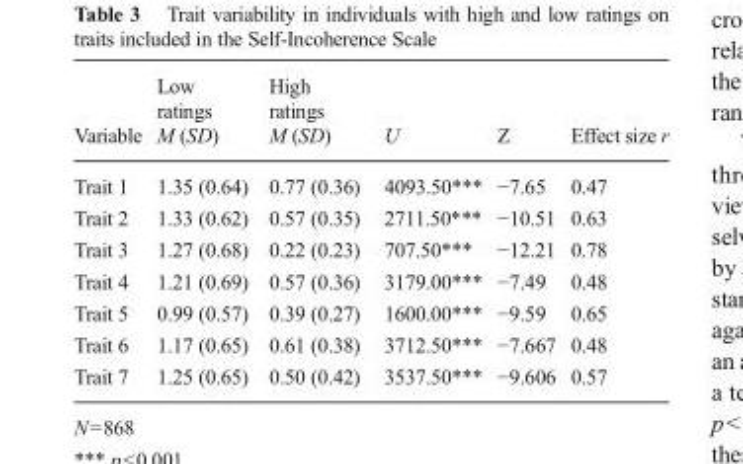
<table><thead><tr><td rowspan="2">Variable</td><td rowspan="2">Low ratings M (SD)</td><td rowspan="2">High ratings M (SD)</td><td rowspan="2">U</td><td rowspan="2">Z</td><td rowspan="2">Effect size r</td></tr><tr></tr></thead><tbody><tr><td>Trait 1</td><td>1.35 (0.64)</td><td>0.77 (0.36)</td><td>4093.50***</td><td>−7.65</td><td>0.47</td></tr><tr><td>Trait 2</td><td>1.33 (0.62)</td><td>0.57 (0.35)</td><td>2711.50***</td><td>−10.51</td><td>0.63</td></tr><tr><td>Trait 3</td><td>1.27 (0.68)</td><td>0.22 (0.23)</td><td>707.50***</td><td>−12.21</td><td>0.78</td></tr><tr><td>Trait 4</td><td>1.21 (0.69)</td><td>0.57 (0.36)</td><td>3179.00***</td><td>−7.49</td><td>0.48</td></tr><tr><td>Trait 5</td><td>0.99 (0.57)</td><td>0.39 (0.27)</td><td>1600.00***</td><td>−9.59</td><td>0.65</td></tr><tr><td>Trait 6</td><td>1.17 (0.65)</td><td>0.61 (0.38)</td><td>3712.50***</td><td>−7.667</td><td>0.48</td></tr><tr><td>Trait 7</td><td>1.25 (0.65)</td><td>0.50 (0.42)</td><td>3537.50***</td><td>−9.606</td><td>0.57</td></tr></tbody></table>